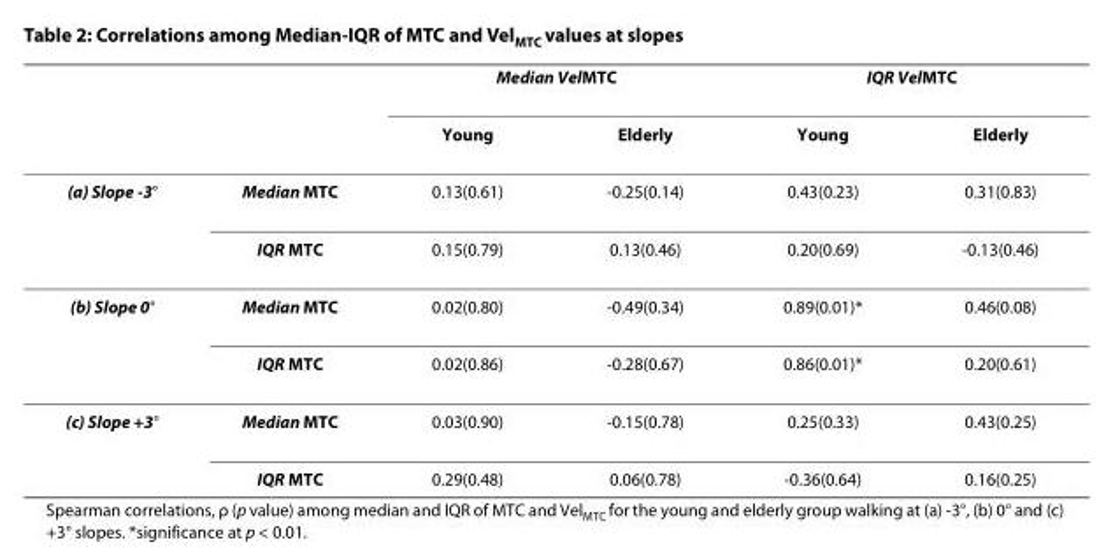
<table><thead><tr><td rowspan="2"></td><td rowspan="2"></td><td colspan="2">Median Vel<sub>MTC</sub></td><td colspan="2">IQR Vel<sub>MTC</sub></td></tr><tr><td>Young</td><td>Elderly</td><td>Young</td><td>Elderly</td></tr></thead><tbody><tr><td rowspan="2">(a) Slope -3°</td><td>Median MTC</td><td>0.13(0.61)</td><td>-0.25(0.14)</td><td>0.43(0.23)</td><td>0.31(0.83)</td></tr><tr><td>IQR MTC</td><td>0.15(0.79)</td><td>0.13(0.46)</td><td>0.20(0.69)</td><td>-0.13(0.46)</td></tr><tr><td rowspan="2">(b) Slope 0°</td><td>Median MTC</td><td>0.02(0.80)</td><td>-0.49(0.34)</td><td>0.89(0.01)*</td><td>0.46(0.08)</td></tr><tr><td>IQR MTC</td><td>0.02(0.86)</td><td>-0.28(0.67)</td><td>0.86(0.01)*</td><td>0.20(0.61)</td></tr><tr><td rowspan="2">(c) Slope +3°</td><td>Median MTC</td><td>0.03(0.90)</td><td>-0.15(0.78)</td><td>0.25(0.33)</td><td>0.43(0.25)</td></tr><tr><td>IQR MTC</td><td>0.29(0.48)</td><td>0.06(0.78)</td><td>-0.36(0.64)</td><td>0.16(0.25)</td></tr></tbody></table>